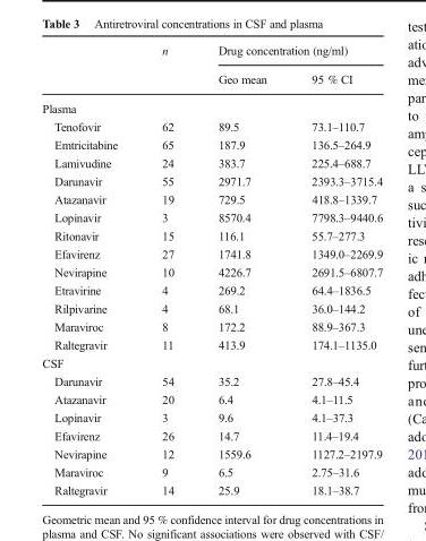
<table><thead><tr><td rowspan="2"></td><td rowspan="2">n</td><td colspan="2">Drug concentration (ng/ml)</td></tr><tr><td>Geo mean</td><td>95 % CI</td></tr></thead><tbody><tr><td colspan="4">Plasma</td></tr><tr><td>Tenofovir</td><td>62</td><td>89.5</td><td>73.1–110.7</td></tr><tr><td>Emtricitabine</td><td>65</td><td>187.9</td><td>136.5–264.9</td></tr><tr><td>Lamivudine</td><td>24</td><td>383.7</td><td>225.4–688.7</td></tr><tr><td>Darunavir</td><td>55</td><td>2971.7</td><td>2393.3–3715.4</td></tr><tr><td>Atazanavir</td><td>19</td><td>729.5</td><td>418.8–1339.7</td></tr><tr><td>Lopinavir</td><td>3</td><td>8570.4</td><td>7798.3–9440.6</td></tr><tr><td>Ritonavir</td><td>15</td><td>116.1</td><td>55.7–277.3</td></tr><tr><td>Efavirenz</td><td>27</td><td>1741.8</td><td>1349.0–2269.9</td></tr><tr><td>Nevirapine</td><td>10</td><td>4226.7</td><td>2691.5–6807.7</td></tr><tr><td>Etravirine</td><td>4</td><td>269.2</td><td>64.4–1836.5</td></tr><tr><td>Rilpivarine</td><td>4</td><td>68.1</td><td>36.0–144.2</td></tr><tr><td>Maraviroc</td><td>8</td><td>172.2</td><td>88.9–367.3</td></tr><tr><td>Raltegravir</td><td>11</td><td>413.9</td><td>174.1–1135.0</td></tr><tr><td colspan="4">CSF</td></tr><tr><td>Darunavir</td><td>54</td><td>35.2</td><td>27.8–45.4</td></tr><tr><td>Atazanavir</td><td>20</td><td>6.4</td><td>4.1–11.5</td></tr><tr><td>Lopinavir</td><td>3</td><td>9.6</td><td>4.1–37.3</td></tr><tr><td>Efavirenz</td><td>26</td><td>14.7</td><td>11.4–19.4</td></tr><tr><td>Nevirapine</td><td>12</td><td>1559.6</td><td>1127.2–2197.9</td></tr><tr><td>Maraviroc</td><td>9</td><td>6.5</td><td>2.75–31.6</td></tr><tr><td>Raltegravir</td><td>14</td><td>25.9</td><td>18.1–38.7</td></tr></tbody></table>